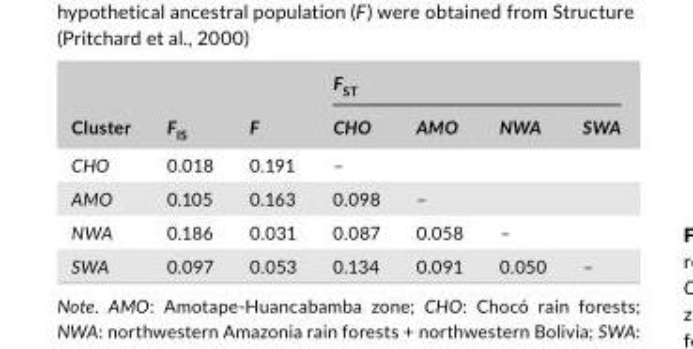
<table><thead><tr><td rowspan="2">Cluster</td><td rowspan="2">F<sub>IS</sub></td><td rowspan="2">F</td><td colspan="4">F<sub>ST</sub></td></tr><tr><td>CHO</td><td>AMO</td><td>NWA</td><td>SWA</td></tr></thead><tbody><tr><td>CHO</td><td>0.018</td><td>0.191</td><td>–</td><td></td><td></td><td></td></tr><tr><td>AMO</td><td>0.105</td><td>0.163</td><td>0.098</td><td>–</td><td></td><td></td></tr><tr><td>NWA</td><td>0.186</td><td>0.031</td><td>0.087</td><td>0.058</td><td>–</td><td></td></tr><tr><td>SWA</td><td>0.097</td><td>0.053</td><td>0.134</td><td>0.091</td><td>0.050</td><td>–</td></tr></tbody></table>